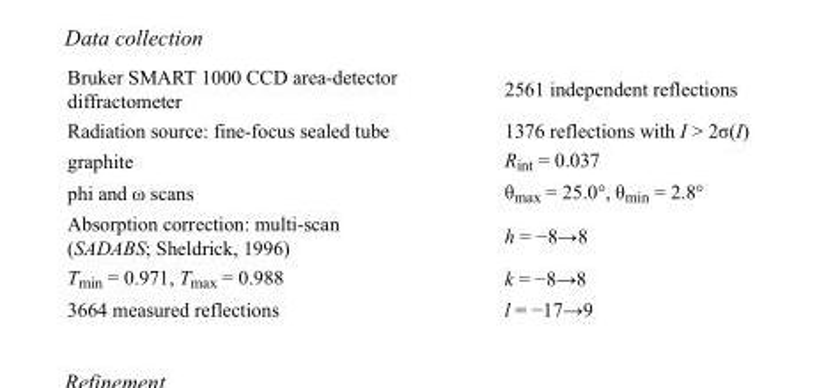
<table><tbody><tr><td>Bruker SMART 1000 CCD area-detector diffractometer</td><td>2561 independent reflections</td></tr><tr><td>Radiation source: fine-focus sealed tube</td><td>1376 reflections with I &gt; 2σ(I)</td></tr><tr><td>graphite</td><td>R<sub>int</sub> = 0.037</td></tr><tr><td>phi and ω scans</td><td>θ<sub>max</sub> = 25.0°, θ<sub>min</sub> = 2.8°</td></tr><tr><td>Absorption correction: multi-scan (SADABS; Sheldrick, 1996)</td><td>h = −8→8</td></tr><tr><td>T<sub>min</sub> = 0.971, T<sub>max</sub> = 0.988</td><td>k = −8→8</td></tr><tr><td>3664 measured reflections</td><td>l = −17→9</td></tr></tbody></table>